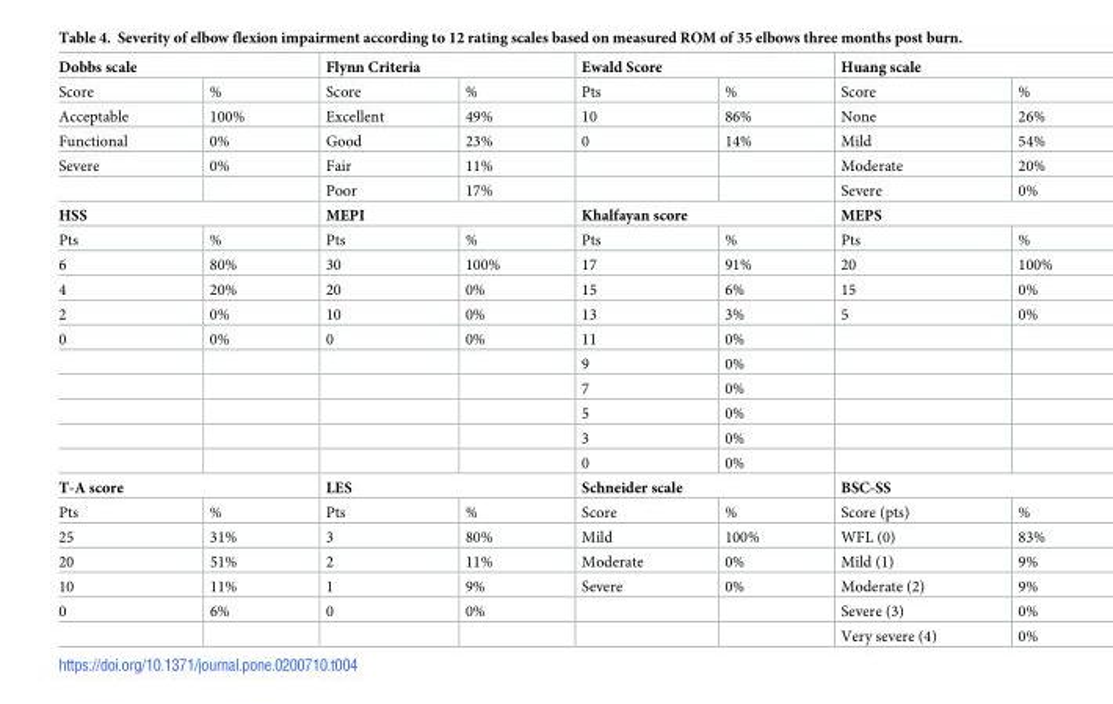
<table><tbody><tr><td colspan="2">Dobbs scale</td><td colspan="2">Flynn Criteria</td><td colspan="2">Ewald Score</td><td colspan="2">Huang scale</td></tr><tr><td>Score</td><td>%</td><td>Score</td><td>%</td><td>Pts</td><td>%</td><td>Score</td><td>%</td></tr><tr><td>Acceptable</td><td>100%</td><td>Excellent</td><td>49%</td><td>10</td><td>86%</td><td>None</td><td>26%</td></tr><tr><td>Functional</td><td>0%</td><td>Good</td><td>23%</td><td>0</td><td>14%</td><td>Mild</td><td>54%</td></tr><tr><td rowspan="2">Severe</td><td>0%</td><td>Fair</td><td>11%</td><td></td><td></td><td>Moderate</td><td>20%</td></tr><tr><td></td><td>Poor</td><td>17%</td><td></td><td></td><td>Severe</td><td>0%</td></tr><tr><td colspan="2">HSS</td><td colspan="2">MEPI</td><td colspan="2">Khalfayan score</td><td colspan="2">MEPS</td></tr><tr><td>Pts</td><td>%</td><td>Pts</td><td>%</td><td>Pts</td><td>%</td><td>Pts</td><td>%</td></tr><tr><td>6</td><td>80%</td><td>30</td><td>100%</td><td>17</td><td>91%</td><td>20</td><td>100%</td></tr><tr><td>4</td><td>20%</td><td>20</td><td>0%</td><td>15</td><td>6%</td><td>15</td><td>0%</td></tr><tr><td>2</td><td>0%</td><td>10</td><td>0%</td><td>13</td><td>3%</td><td>5</td><td>0%</td></tr><tr><td rowspan="6">0</td><td>0%</td><td>0</td><td>0%</td><td>11</td><td>0%</td><td></td><td></td></tr><tr><td></td><td></td><td></td><td>9</td><td>0%</td><td></td><td></td></tr><tr><td></td><td></td><td></td><td>7</td><td>0%</td><td></td><td></td></tr><tr><td></td><td></td><td></td><td>5</td><td>0%</td><td></td><td></td></tr><tr><td></td><td></td><td></td><td>3</td><td>0%</td><td></td><td></td></tr><tr><td></td><td></td><td></td><td>0</td><td>0%</td><td></td><td></td></tr><tr><td colspan="2">T-A score</td><td colspan="2">LES</td><td colspan="2">Schneider scale</td><td colspan="2">BSC-SS</td></tr><tr><td>Pts</td><td>%</td><td>Pts</td><td>%</td><td>Score</td><td>%</td><td>Score (pts)</td><td>%</td></tr><tr><td>25</td><td>31%</td><td>3</td><td>80%</td><td>Mild</td><td>100%</td><td>WFL (0)</td><td>83%</td></tr><tr><td>20</td><td>51%</td><td>2</td><td>11%</td><td>Moderate</td><td>0%</td><td>Mild (1)</td><td>9%</td></tr><tr><td>10</td><td>11%</td><td>1</td><td>9%</td><td>Severe</td><td>0%</td><td>Moderate (2)</td><td>9%</td></tr><tr><td rowspan="2">0</td><td>6%</td><td>0</td><td>0%</td><td></td><td></td><td>Severe (3)</td><td>0%</td></tr><tr><td></td><td></td><td></td><td></td><td></td><td>Very severe (4)</td><td>0%</td></tr></tbody></table>